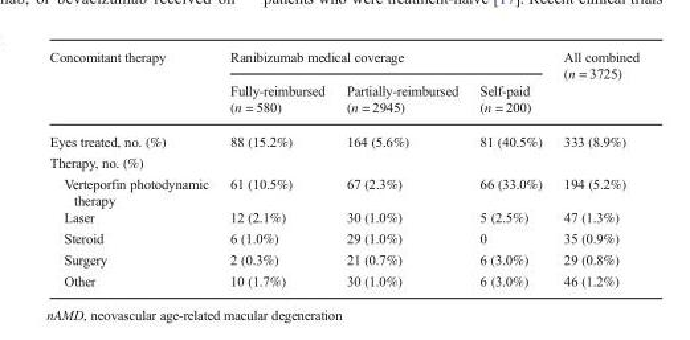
<table><thead><tr><td rowspan="2">Concomitant therapy</td><td colspan="3">Ranibizumab medical coverage</td><td rowspan="2">All combined (n = 3725)</td></tr><tr><td>Fully-reimbursed (n = 580)</td><td>Partially-reimbursed (n = 2945)</td><td>Self-paid (n = 200)</td></tr></thead><tbody><tr><td>Eyes treated, no. (%)</td><td>88 (15.2%)</td><td>164 (5.6%)</td><td>81 (40.5%)</td><td>333 (8.9%)</td></tr><tr><td colspan="5">Therapy, no. (%)</td></tr><tr><td>Verteporfin photodynamic therapy</td><td>61 (10.5%)</td><td>67 (2.3%)</td><td>66 (33.0%)</td><td>194 (5.2%)</td></tr><tr><td>Laser</td><td>12 (2.1%)</td><td>30 (1.0%)</td><td>5 (2.5%)</td><td>47 (1.3%)</td></tr><tr><td>Steroid</td><td>6 (1.0%)</td><td>29 (1.0%)</td><td>0</td><td>35 (0.9%)</td></tr><tr><td>Surgery</td><td>2 (0.3%)</td><td>21 (0.7%)</td><td>6 (3.0%)</td><td>29 (0.8%)</td></tr><tr><td>Other</td><td>10 (1.7%)</td><td>30 (1.0%)</td><td>6 (3.0%)</td><td>46 (1.2%)</td></tr></tbody></table>